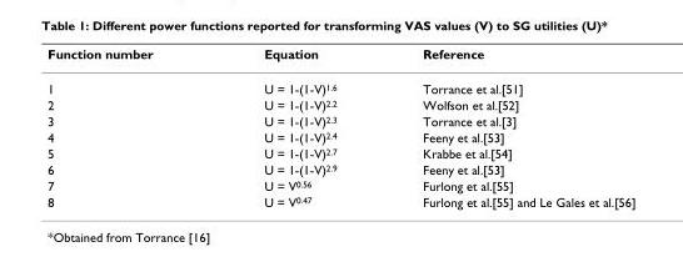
<table><thead><tr><td>Function number</td><td>Equation</td><td>Reference</td></tr></thead><tbody><tr><td>1</td><td>U = 1-(1-V)<sup>1.6</sup></td><td>Torrance et al.[51]</td></tr><tr><td>2</td><td>U = 1-(1-V)<sup>2.2</sup></td><td>Wolfson et al.[52]</td></tr><tr><td>3</td><td>U = 1-(1-V)<sup>2.3</sup></td><td>Torrance et al.[3]</td></tr><tr><td>4</td><td>U = 1-(1-V)<sup>2.4</sup></td><td>Feeny et al.[53]</td></tr><tr><td>5</td><td>U = 1-(1-V)<sup>2.7</sup></td><td>Krabbe et al.[54]</td></tr><tr><td>6</td><td>U = 1-(1-V)<sup>2.9</sup></td><td>Feeny et al.[53]</td></tr><tr><td>7</td><td>U = V<sup>0.56</sup></td><td>Furlong et al.[55]</td></tr><tr><td>8</td><td>U = V<sup>0.47</sup></td><td>Furlong et al.[55] and Le Gales et al.[56]</td></tr></tbody></table>